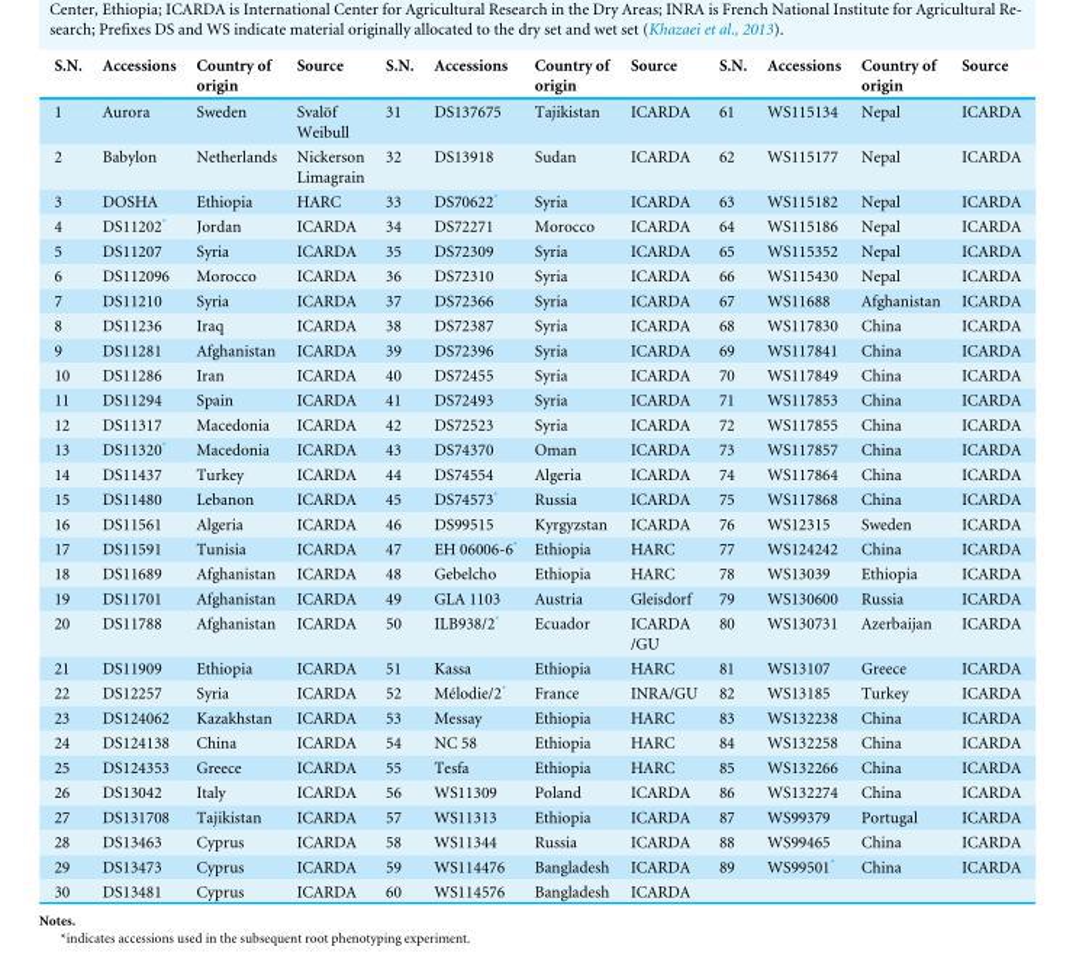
<table><thead><tr><td>S.N.</td><td>Accessions</td><td>Country of origin</td><td>Source</td><td>S.N.</td><td>Accessions</td><td>Country of origin</td><td>Source</td><td>S.N.</td><td>Accessions</td><td>Country of origin</td><td>Source</td></tr></thead><tbody><tr><td>1</td><td>Aurora</td><td>Sweden</td><td>Svalöf Weibull</td><td>31</td><td>DS137675</td><td>Tajikistan</td><td>ICARDA</td><td>61</td><td>WS115134</td><td>Nepal</td><td>ICARDA</td></tr><tr><td>2</td><td>Babylon</td><td>Netherlands</td><td>Nickerson Limagrain</td><td>32</td><td>DS13918</td><td>Sudan</td><td>ICARDA</td><td>62</td><td>WS115177</td><td>Nepal</td><td>ICARDA</td></tr><tr><td>3</td><td>DOSHA</td><td>Ethiopia</td><td>HARC</td><td>33</td><td>DS70622*</td><td>Syria</td><td>ICARDA</td><td>63</td><td>WS115182</td><td>Nepal</td><td>ICARDA</td></tr><tr><td>4</td><td>DS11202*</td><td>Jordan</td><td>ICARDA</td><td>34</td><td>DS72271</td><td>Morocco</td><td>ICARDA</td><td>64</td><td>WS115186</td><td>Nepal</td><td>ICARDA</td></tr><tr><td>5</td><td>DS11207</td><td>Syria</td><td>ICARDA</td><td>35</td><td>DS72309</td><td>Syria</td><td>ICARDA</td><td>65</td><td>WS115352</td><td>Nepal</td><td>ICARDA</td></tr><tr><td>6</td><td>DS112096</td><td>Morocco</td><td>ICARDA</td><td>36</td><td>DS72310</td><td>Syria</td><td>ICARDA</td><td>66</td><td>WS115430</td><td>Nepal</td><td>ICARDA</td></tr><tr><td>7</td><td>DS11210</td><td>Syria</td><td>ICARDA</td><td>37</td><td>DS72366</td><td>Syria</td><td>ICARDA</td><td>67</td><td>WS11688</td><td>Afghanistan</td><td>ICARDA</td></tr><tr><td>8</td><td>DS11236</td><td>Iraq</td><td>ICARDA</td><td>38</td><td>DS72387</td><td>Syria</td><td>ICARDA</td><td>68</td><td>WS117830</td><td>China</td><td>ICARDA</td></tr><tr><td>9</td><td>DS11281</td><td>Afghanistan</td><td>ICARDA</td><td>39</td><td>DS72396</td><td>Syria</td><td>ICARDA</td><td>69</td><td>WS117841</td><td>China</td><td>ICARDA</td></tr><tr><td>10</td><td>DS11286</td><td>Iran</td><td>ICARDA</td><td>40</td><td>DS72455</td><td>Syria</td><td>ICARDA</td><td>70</td><td>WS117849</td><td>China</td><td>ICARDA</td></tr><tr><td>11</td><td>DS11294</td><td>Spain</td><td>ICARDA</td><td>41</td><td>DS72493</td><td>Syria</td><td>ICARDA</td><td>71</td><td>WS117853</td><td>China</td><td>ICARDA</td></tr><tr><td>12</td><td>DS11317</td><td>Macedonia</td><td>ICARDA</td><td>42</td><td>DS72523</td><td>Syria</td><td>ICARDA</td><td>72</td><td>WS117855</td><td>China</td><td>ICARDA</td></tr><tr><td>13</td><td>DS11320*</td><td>Macedonia</td><td>ICARDA</td><td>43</td><td>DS74370</td><td>Oman</td><td>ICARDA</td><td>73</td><td>WS117857</td><td>China</td><td>ICARDA</td></tr><tr><td>14</td><td>DS11437</td><td>Turkey</td><td>ICARDA</td><td>44</td><td>DS74554</td><td>Algeria</td><td>ICARDA</td><td>74</td><td>WS117864</td><td>China</td><td>ICARDA</td></tr><tr><td>15</td><td>DS11480</td><td>Lebanon</td><td>ICARDA</td><td>45</td><td>DS74573*</td><td>Russia</td><td>ICARDA</td><td>75</td><td>WS117868</td><td>China</td><td>ICARDA</td></tr><tr><td>16</td><td>DS11561</td><td>Algeria</td><td>ICARDA</td><td>46</td><td>DS99515</td><td>Kyrgyzstan</td><td>ICARDA</td><td>76</td><td>WS12315</td><td>Sweden</td><td>ICARDA</td></tr><tr><td>17</td><td>DS11591</td><td>Tunisia</td><td>ICARDA</td><td>47</td><td>EH 06006-6*</td><td>Ethiopia</td><td>HARC</td><td>77</td><td>WS124242</td><td>China</td><td>ICARDA</td></tr><tr><td>18</td><td>DS11689</td><td>Afghanistan</td><td>ICARDA</td><td>48</td><td>Gebelcho</td><td>Ethiopia</td><td>HARC</td><td>78</td><td>WS13039</td><td>Ethiopia</td><td>ICARDA</td></tr><tr><td>19</td><td>DS11701</td><td>Afghanistan</td><td>ICARDA</td><td>49</td><td>GLA 1103</td><td>Austria</td><td>Gleisdorf</td><td>79</td><td>WS130600</td><td>Russia</td><td>ICARDA</td></tr><tr><td>20</td><td>DS11788</td><td>Afghanistan</td><td>ICARDA</td><td>50</td><td>ILB938/2*</td><td>Ecuador</td><td>ICARDA /GU</td><td>80</td><td>WS130731</td><td>Azerbaijan</td><td>ICARDA</td></tr><tr><td>21</td><td>DS11909</td><td>Ethiopia</td><td>ICARDA</td><td>51</td><td>Kassa</td><td>Ethiopia</td><td>HARC</td><td>81</td><td>WS13107</td><td>Greece</td><td>ICARDA</td></tr><tr><td>22</td><td>DS12257</td><td>Syria</td><td>ICARDA</td><td>52</td><td>Mélodie/2*</td><td>France</td><td>INRA/GU</td><td>82</td><td>WS13185</td><td>Turkey</td><td>ICARDA</td></tr><tr><td>23</td><td>DS124062</td><td>Kazakhstan</td><td>ICARDA</td><td>53</td><td>Messay</td><td>Ethiopia</td><td>HARC</td><td>83</td><td>WS132238</td><td>China</td><td>ICARDA</td></tr><tr><td>24</td><td>DS124138</td><td>China</td><td>ICARDA</td><td>54</td><td>NC 58</td><td>Ethiopia</td><td>HARC</td><td>84</td><td>WS132258</td><td>China</td><td>ICARDA</td></tr><tr><td>25</td><td>DS124353</td><td>Greece</td><td>ICARDA</td><td>55</td><td>Tesfa</td><td>Ethiopia</td><td>HARC</td><td>85</td><td>WS132266</td><td>China</td><td>ICARDA</td></tr><tr><td>26</td><td>DS13042</td><td>Italy</td><td>ICARDA</td><td>56</td><td>WS11309</td><td>Poland</td><td>ICARDA</td><td>86</td><td>WS132274</td><td>China</td><td>ICARDA</td></tr><tr><td>27</td><td>DS131708</td><td>Tajikistan</td><td>ICARDA</td><td>57</td><td>WS11313</td><td>Ethiopia</td><td>ICARDA</td><td>87</td><td>WS99379</td><td>Portugal</td><td>ICARDA</td></tr><tr><td>28</td><td>DS13463</td><td>Cyprus</td><td>ICARDA</td><td>58</td><td>WS11344</td><td>Russia</td><td>ICARDA</td><td>88</td><td>WS99465</td><td>China</td><td>ICARDA</td></tr><tr><td>29</td><td>DS13473</td><td>Cyprus</td><td>ICARDA</td><td>59</td><td>WS114476</td><td>Bangladesh</td><td>ICARDA</td><td>89</td><td>WS99501*</td><td>China</td><td>ICARDA</td></tr><tr><td>30</td><td>DS13481</td><td>Cyprus</td><td>ICARDA</td><td>60</td><td>WS114576</td><td>Bangladesh</td><td>ICARDA</td><td></td><td></td><td></td><td></td></tr></tbody></table>